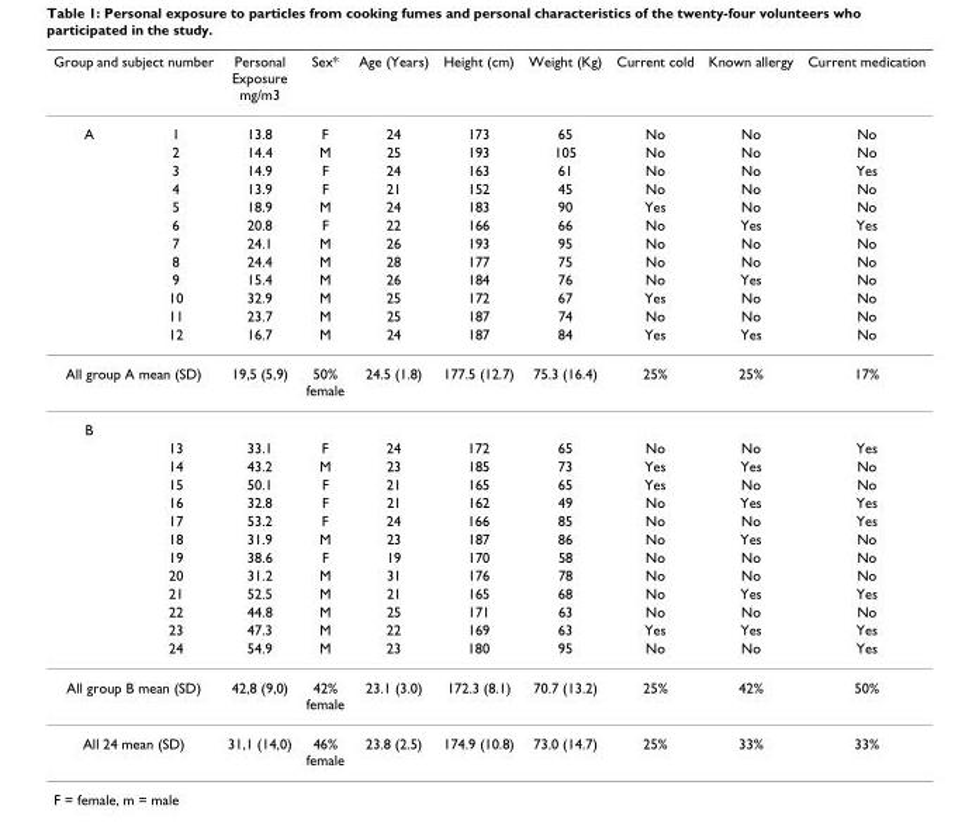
<table><thead><tr><td colspan="2">Group and subject number</td><td rowspan="2">Personal Exposure mg/m3 13.8</td><td rowspan="2">Sex* F</td><td rowspan="2">Age (Years) 24</td><td rowspan="2">Height (cm) 173</td><td rowspan="2">Weight (Kg) 65</td><td rowspan="2">Current cold No</td><td rowspan="2">Known allergy No</td><td rowspan="2">Current medication No</td></tr><tr><td>A</td><td>1</td></tr></thead><tbody><tr><td></td><td>2</td><td>14.4</td><td>M</td><td>25</td><td>193</td><td>105</td><td>No</td><td>No</td><td>No</td></tr><tr><td></td><td>3</td><td>14.9</td><td>F</td><td>24</td><td>163</td><td>61</td><td>No</td><td>No</td><td>Yes</td></tr><tr><td></td><td>4</td><td>13.9</td><td>F</td><td>21</td><td>152</td><td>45</td><td>No</td><td>No</td><td>No</td></tr><tr><td></td><td>5</td><td>18.9</td><td>M</td><td>24</td><td>183</td><td>90</td><td>Yes</td><td>No</td><td>No</td></tr><tr><td></td><td>6</td><td>20.8</td><td>F</td><td>22</td><td>166</td><td>66</td><td>No</td><td>Yes</td><td>Yes</td></tr><tr><td></td><td>7</td><td>24.1</td><td>M</td><td>26</td><td>193</td><td>95</td><td>No</td><td>No</td><td>No</td></tr><tr><td></td><td>8</td><td>24.4</td><td>M</td><td>28</td><td>177</td><td>75</td><td>No</td><td>No</td><td>No</td></tr><tr><td></td><td>9</td><td>15.4</td><td>M</td><td>26</td><td>184</td><td>76</td><td>No</td><td>Yes</td><td>No</td></tr><tr><td></td><td>10</td><td>32.9</td><td>M</td><td>25</td><td>172</td><td>67</td><td>Yes</td><td>No</td><td>No</td></tr><tr><td></td><td>11</td><td>23.7</td><td>M</td><td>25</td><td>187</td><td>74</td><td>No</td><td>No</td><td>No</td></tr><tr><td></td><td>12</td><td>16.7</td><td>M</td><td>24</td><td>187</td><td>84</td><td>Yes</td><td>Yes</td><td>No</td></tr><tr><td colspan="2">All group A mean (SD)</td><td>19,5 (5,9)</td><td>50% female</td><td>24.5 (1.8)</td><td>177.5 (12.7)</td><td>75.3 (16.4)</td><td>25%</td><td>25%</td><td>17%</td></tr><tr><td colspan="10">B</td></tr><tr><td></td><td>13</td><td>33.1</td><td>F</td><td>24</td><td>172</td><td>65</td><td>No</td><td>No</td><td>Yes</td></tr><tr><td></td><td>14</td><td>43.2</td><td>M</td><td>23</td><td>185</td><td>73</td><td>Yes</td><td>Yes</td><td>No</td></tr><tr><td></td><td>15</td><td>50.1</td><td>F</td><td>21</td><td>165</td><td>65</td><td>Yes</td><td>No</td><td>No</td></tr><tr><td></td><td>16</td><td>32.8</td><td>F</td><td>21</td><td>162</td><td>49</td><td>No</td><td>Yes</td><td>Yes</td></tr><tr><td></td><td>17</td><td>53.2</td><td>F</td><td>24</td><td>166</td><td>85</td><td>No</td><td>No</td><td>Yes</td></tr><tr><td></td><td>18</td><td>31.9</td><td>M</td><td>23</td><td>187</td><td>86</td><td>No</td><td>Yes</td><td>No</td></tr><tr><td></td><td>19</td><td>38.6</td><td>F</td><td>19</td><td>170</td><td>58</td><td>No</td><td>No</td><td>No</td></tr><tr><td></td><td>20</td><td>31.2</td><td>M</td><td>31</td><td>176</td><td>78</td><td>No</td><td>No</td><td>No</td></tr><tr><td></td><td>21</td><td>52.5</td><td>M</td><td>21</td><td>165</td><td>68</td><td>No</td><td>Yes</td><td>Yes</td></tr><tr><td></td><td>22</td><td>44.8</td><td>M</td><td>25</td><td>171</td><td>63</td><td>No</td><td>No</td><td>No</td></tr><tr><td></td><td>23</td><td>47.3</td><td>M</td><td>22</td><td>169</td><td>63</td><td>Yes</td><td>Yes</td><td>Yes</td></tr><tr><td></td><td>24</td><td>54.9</td><td>M</td><td>23</td><td>180</td><td>95</td><td>No</td><td>No</td><td>Yes</td></tr><tr><td colspan="2">All group B mean (SD)</td><td>42,8 (9,0)</td><td>42% female</td><td>23.1 (3.0)</td><td>172.3 (8.1)</td><td>70.7 (13.2)</td><td>25%</td><td>42%</td><td>50%</td></tr><tr><td colspan="2">All 24 mean (SD)</td><td>31,1 (14,0)</td><td>46% female</td><td>23.8 (2.5)</td><td>174.9 (10.8)</td><td>73.0 (14.7)</td><td>25%</td><td>33%</td><td>33%</td></tr></tbody></table>